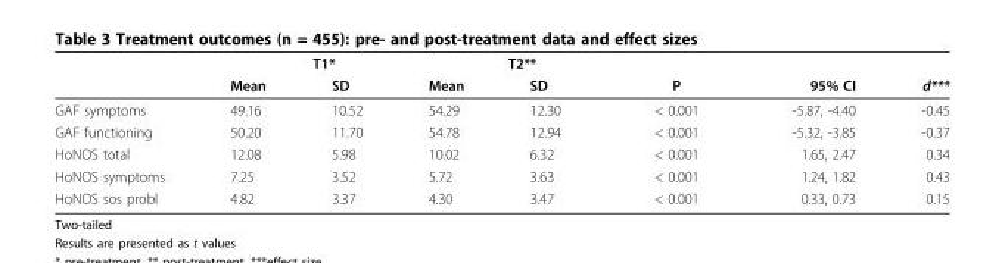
<table><thead><tr><td rowspan="2"></td><td colspan="2">T1*</td><td colspan="2">T2**</td><td rowspan="2">P</td><td rowspan="2">95% CI</td><td rowspan="2">d***</td></tr><tr><td>Mean</td><td>SD</td><td>Mean</td><td>SD</td></tr></thead><tbody><tr><td>GAF symptoms</td><td>49.16</td><td>10.52</td><td>54.29</td><td>12.30</td><td>&lt; 0.001</td><td>-5.87, -4.40</td><td>-0.45</td></tr><tr><td>GAF functioning</td><td>50.20</td><td>11.70</td><td>54.78</td><td>12.94</td><td>&lt; 0.001</td><td>-5.32, -3.85</td><td>-0.37</td></tr><tr><td>HoNOS total</td><td>12.08</td><td>5.98</td><td>10.02</td><td>6.32</td><td>&lt; 0.001</td><td>1.65, 2.47</td><td>0.34</td></tr><tr><td>HoNOS symptoms</td><td>7.25</td><td>3.52</td><td>5.72</td><td>3.63</td><td>&lt; 0.001</td><td>1.24, 1.82</td><td>0.43</td></tr><tr><td>HoNOS sos probl</td><td>4.82</td><td>3.37</td><td>4.30</td><td>3.47</td><td>&lt; 0.001</td><td>0.33, 0.73</td><td>0.15</td></tr></tbody></table>